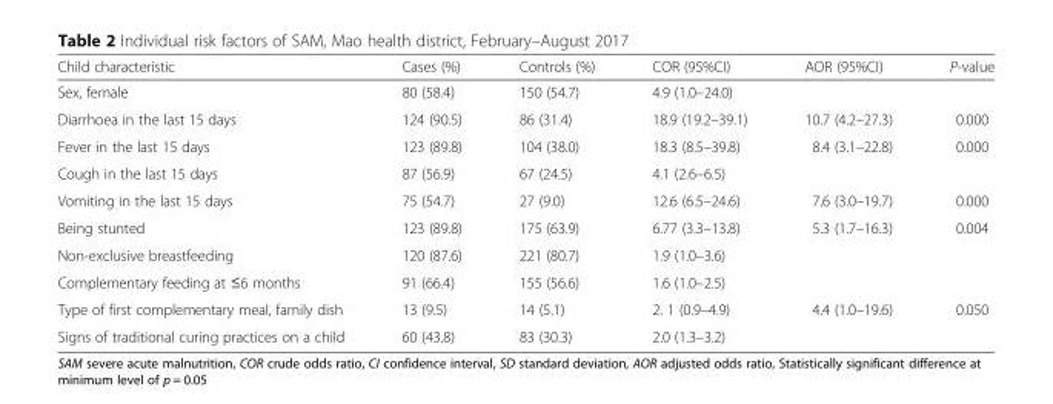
<table><thead><tr><td>Child characteristic</td><td>Cases (%)</td><td>Controls (%)</td><td>COR (95%CI)</td><td>AOR (95%CI)</td><td>P-value</td></tr></thead><tbody><tr><td>Sex, female</td><td>80 (58.4)</td><td>150 (54.7)</td><td>4.9 (1.0–24.0)</td><td></td><td></td></tr><tr><td>Diarrhoea in the last 15 days</td><td>124 (90.5)</td><td>86 (31.4)</td><td>18.9 (19.2–39.1)</td><td>10.7 (4.2–27.3)</td><td>0.000</td></tr><tr><td>Fever in the last 15 days</td><td>123 (89.8)</td><td>104 (38.0)</td><td>18.3 (8.5–39.8)</td><td>8.4 (3.1–22.8)</td><td>0.000</td></tr><tr><td>Cough in the last 15 days</td><td>87 (56.9)</td><td>67 (24.5)</td><td>4.1 (2.6–6.5)</td><td></td><td></td></tr><tr><td>Vomiting in the last 15 days</td><td>75 (54.7)</td><td>27 (9.0)</td><td>12.6 (6.5–24.6)</td><td>7.6 (3.0–19.7)</td><td>0.000</td></tr><tr><td>Being stunted</td><td>123 (89.8)</td><td>175 (63.9)</td><td>6.77 (3.3–13.8)</td><td>5.3 (1.7–16.3)</td><td>0.004</td></tr><tr><td>Non-exclusive breastfeeding</td><td>120 (87.6)</td><td>221 (80.7)</td><td>1.9 (1.0–3.6)</td><td></td><td></td></tr><tr><td>Complementary feeding at ≤6 months</td><td>91 (66.4)</td><td>155 (56.6)</td><td>1.6 (1.0–2.5)</td><td></td><td></td></tr><tr><td>Type of first complementary meal, family dish</td><td>13 (9.5)</td><td>14 (5.1)</td><td>2. 1 (0.9–4.9)</td><td>4.4 (1.0–19.6)</td><td>0.050</td></tr><tr><td>Signs of traditional curing practices on a child</td><td>60 (43.8)</td><td>83 (30.3)</td><td>2.0 (1.3–3.2)</td><td></td><td></td></tr></tbody></table>